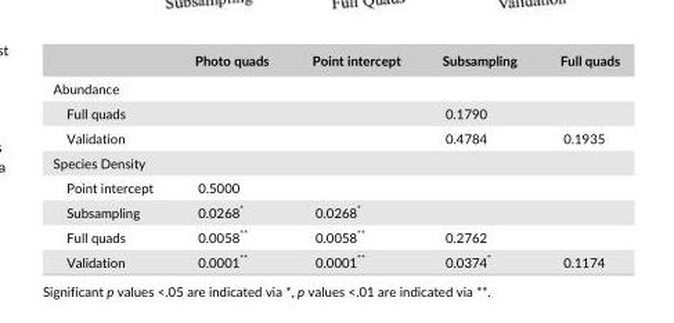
<table><thead><tr><td></td><td>Photo quads</td><td>Point intercept</td><td>Subsampling</td><td>Full quads</td></tr></thead><tbody><tr><td colspan="5">Abundance</td></tr><tr><td>Full quads</td><td></td><td></td><td>0.1790</td><td></td></tr><tr><td>Validation</td><td></td><td></td><td>0.4784</td><td>0.1935</td></tr><tr><td colspan="5">Species Density</td></tr><tr><td>Point intercept</td><td>0.5000</td><td></td><td></td><td></td></tr><tr><td>Subsampling</td><td>0.0268*</td><td>0.0268*</td><td></td><td></td></tr><tr><td>Full quads</td><td>0.0058**</td><td>0.0058**</td><td>0.2762</td><td></td></tr><tr><td>Validation</td><td>0.0001**</td><td>0.0001**</td><td>0.0374*</td><td>0.1174</td></tr></tbody></table>